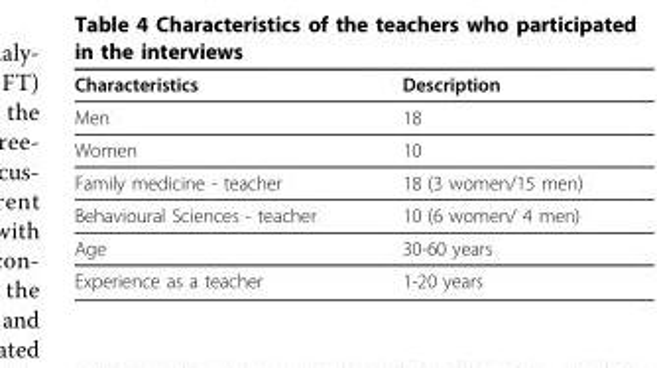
<table><thead><tr><td>Characteristics</td><td>Description</td></tr></thead><tbody><tr><td>Men</td><td>18</td></tr><tr><td>Women</td><td>10</td></tr><tr><td>Family medicine - teacher</td><td>18 (3 women/15 men)</td></tr><tr><td>Behavioural Sciences - teacher</td><td>10 (6 women/ 4 men)</td></tr><tr><td>Age</td><td>30-60 years</td></tr><tr><td>Experience as a teacher</td><td>1-20 years</td></tr></tbody></table>